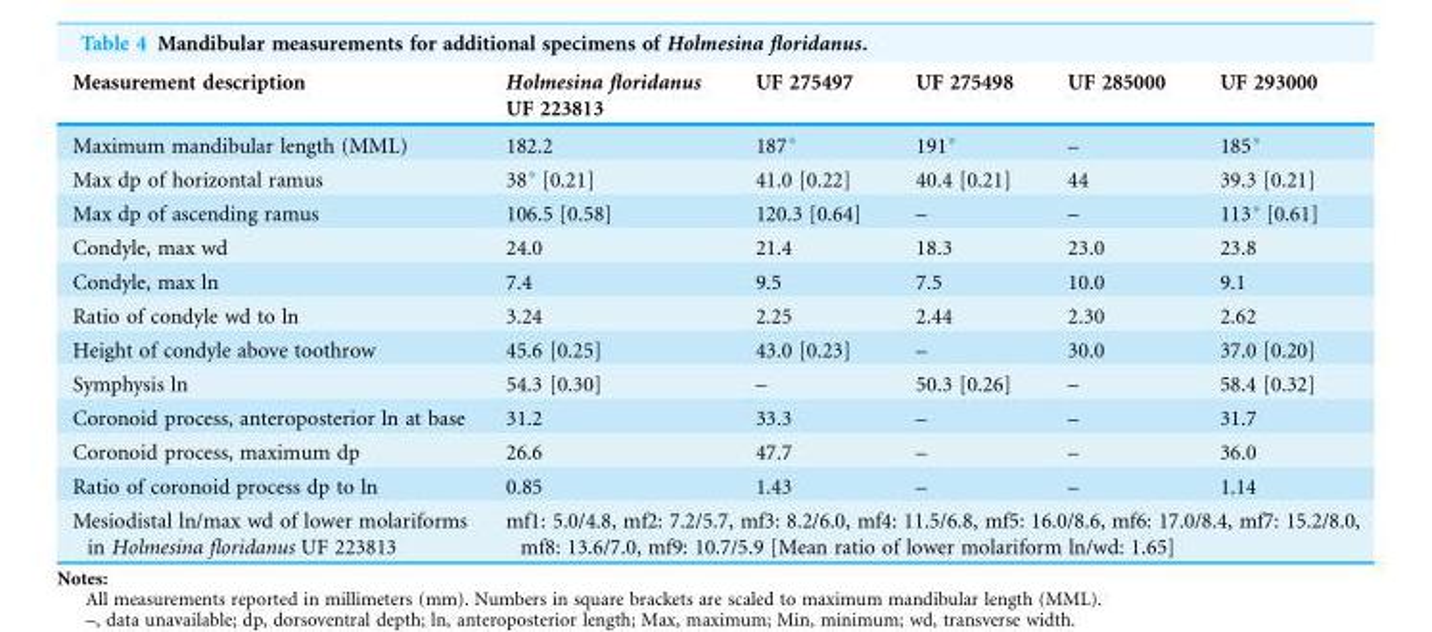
<table><thead><tr><td>Measurement description</td><td>Holmesina floridanus UF 223813</td><td>UF 275497</td><td>UF 275498</td><td>UF 285000</td><td>UF 293000</td></tr></thead><tbody><tr><td>Maximum mandibular length (MML)</td><td>182.2</td><td>187*</td><td>191*</td><td>–</td><td>185*</td></tr><tr><td>Max dp of horizontal ramus</td><td>38* [0.21]</td><td>41.0 [0.22]</td><td>40.4 [0.21]</td><td>44</td><td>39.3 [0.21]</td></tr><tr><td>Max dp of ascending ramus</td><td>106.5 [0.58]</td><td>120.3 [0.64]</td><td>–</td><td>–</td><td>113* [0.61]</td></tr><tr><td>Condyle, max wd</td><td>24.0</td><td>21.4</td><td>18.3</td><td>23.0</td><td>23.8</td></tr><tr><td>Condyle, max ln</td><td>7.4</td><td>9.5</td><td>7.5</td><td>10.0</td><td>9.1</td></tr><tr><td>Ratio of condyle wd to ln</td><td>3.24</td><td>2.25</td><td>2.44</td><td>2.30</td><td>2.62</td></tr><tr><td>Height of condyle above toothrow</td><td>45.6 [0.25]</td><td>43.0 [0.23]</td><td>–</td><td>30.0</td><td>37.0 [0.20]</td></tr><tr><td>Symphysis ln</td><td>54.3 [0.30]</td><td>–</td><td>50.3 [0.26]</td><td>–</td><td>58.4 [0.32]</td></tr><tr><td>Coronoid process, anteroposterior ln at base</td><td>31.2</td><td>33.3</td><td>–</td><td>–</td><td>31.7</td></tr><tr><td>Coronoid process, maximum dp</td><td>26.6</td><td>47.7</td><td>–</td><td>–</td><td>36.0</td></tr><tr><td>Ratio of coronoid process dp to ln</td><td>0.85</td><td>1.43</td><td>–</td><td>–</td><td>1.14</td></tr><tr><td>Mesiodistal ln/max wd of lower molariforms in Holmesina floridanus UF 223813</td><td colspan="5">mf1: 5.0/4.8, mf2: 7.2/5.7, mf3: 8.2/6.0, mf4: 11.5/6.8, mf5: 16.0/8.6, mf6: 17.0/8.4, mf7: 15.2/8.0, mf8: 13.6/7.0, mf9: 10.7/5.9 [Mean ratio of lower molariform ln/wd: 1.65]</td></tr></tbody></table>